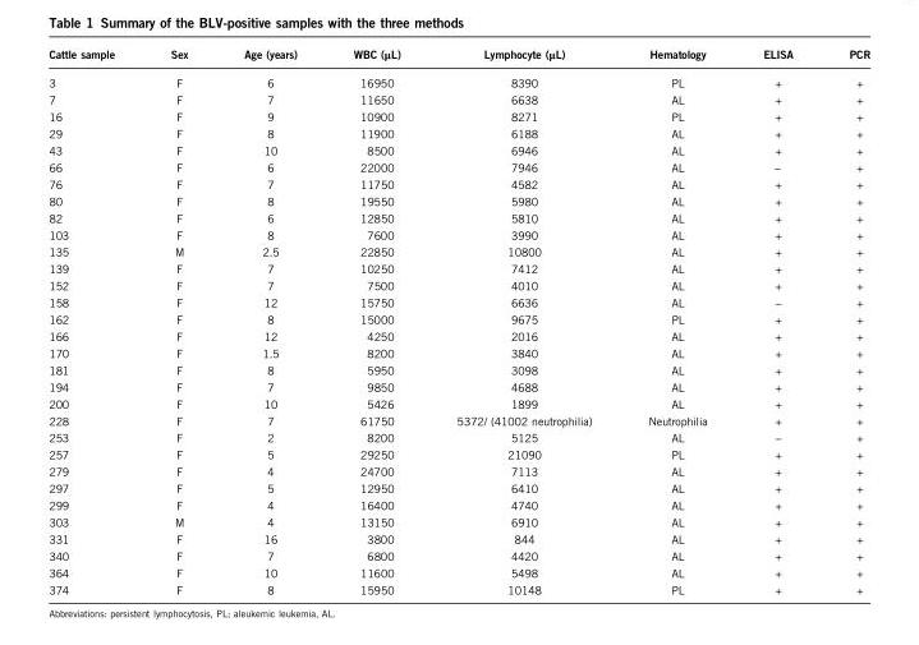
<table><thead><tr><td>Cattle sample</td><td>Sex</td><td>Age (years)</td><td>WBC (μL)</td><td>Lymphocyte (μL)</td><td>Hematology</td><td>ELISA</td><td>PCR</td></tr></thead><tbody><tr><td>3</td><td>F</td><td>6</td><td>16950</td><td>8390</td><td>PL</td><td>+</td><td>+</td></tr><tr><td>7</td><td>F</td><td>7</td><td>11650</td><td>6638</td><td>AL</td><td>+</td><td>+</td></tr><tr><td>16</td><td>F</td><td>9</td><td>10900</td><td>8271</td><td>PL</td><td>+</td><td>+</td></tr><tr><td>29</td><td>F</td><td>8</td><td>11900</td><td>6188</td><td>AL</td><td>+</td><td>+</td></tr><tr><td>43</td><td>F</td><td>10</td><td>8500</td><td>6946</td><td>AL</td><td>+</td><td>+</td></tr><tr><td>66</td><td>F</td><td>6</td><td>22000</td><td>7946</td><td>AL</td><td>−</td><td>+</td></tr><tr><td>76</td><td>F</td><td>7</td><td>11750</td><td>4582</td><td>AL</td><td>+</td><td>+</td></tr><tr><td>80</td><td>F</td><td>8</td><td>19550</td><td>5980</td><td>AL</td><td>+</td><td>+</td></tr><tr><td>82</td><td>F</td><td>6</td><td>12850</td><td>5810</td><td>AL</td><td>+</td><td>+</td></tr><tr><td>103</td><td>F</td><td>8</td><td>7600</td><td>3990</td><td>AL</td><td>+</td><td>+</td></tr><tr><td>135</td><td>M</td><td>2.5</td><td>22850</td><td>10800</td><td>AL</td><td>+</td><td>+</td></tr><tr><td>139</td><td>F</td><td>7</td><td>10250</td><td>7412</td><td>AL</td><td>+</td><td>+</td></tr><tr><td>152</td><td>F</td><td>7</td><td>7500</td><td>4010</td><td>AL</td><td>+</td><td>+</td></tr><tr><td>158</td><td>F</td><td>12</td><td>15750</td><td>6636</td><td>AL</td><td>−</td><td>+</td></tr><tr><td>162</td><td>F</td><td>8</td><td>15000</td><td>9675</td><td>PL</td><td>+</td><td>+</td></tr><tr><td>166</td><td>F</td><td>12</td><td>4250</td><td>2016</td><td>AL</td><td>+</td><td>+</td></tr><tr><td>170</td><td>F</td><td>1.5</td><td>8200</td><td>3840</td><td>AL</td><td>+</td><td>+</td></tr><tr><td>181</td><td>F</td><td>8</td><td>5950</td><td>3098</td><td>AL</td><td>+</td><td>+</td></tr><tr><td>194</td><td>F</td><td>7</td><td>9850</td><td>4688</td><td>AL</td><td>+</td><td>+</td></tr><tr><td>200</td><td>F</td><td>10</td><td>5426</td><td>1899</td><td>AL</td><td>+</td><td>+</td></tr><tr><td>228</td><td>F</td><td>7</td><td>61750</td><td>5372/ (41002 neutrophilia)</td><td>Neutrophilia</td><td>+</td><td>+</td></tr><tr><td>253</td><td>F</td><td>2</td><td>8200</td><td>5125</td><td>AL</td><td>−</td><td>+</td></tr><tr><td>257</td><td>F</td><td>5</td><td>29250</td><td>21090</td><td>PL</td><td>+</td><td>+</td></tr><tr><td>279</td><td>F</td><td>4</td><td>24700</td><td>7113</td><td>AL</td><td>+</td><td>+</td></tr><tr><td>297</td><td>F</td><td>5</td><td>12950</td><td>6410</td><td>AL</td><td>+</td><td>+</td></tr><tr><td>299</td><td>F</td><td>4</td><td>16400</td><td>4740</td><td>AL</td><td>+</td><td>+</td></tr><tr><td>303</td><td>M</td><td>4</td><td>13150</td><td>6910</td><td>AL</td><td>+</td><td>+</td></tr><tr><td>331</td><td>F</td><td>16</td><td>3800</td><td>844</td><td>AL</td><td>+</td><td>+</td></tr><tr><td>340</td><td>F</td><td>7</td><td>6800</td><td>4420</td><td>AL</td><td>+</td><td>+</td></tr><tr><td>364</td><td>F</td><td>10</td><td>11600</td><td>5498</td><td>AL</td><td>+</td><td>+</td></tr><tr><td>374</td><td>F</td><td>8</td><td>15950</td><td>10148</td><td>PL</td><td>+</td><td>+</td></tr></tbody></table>